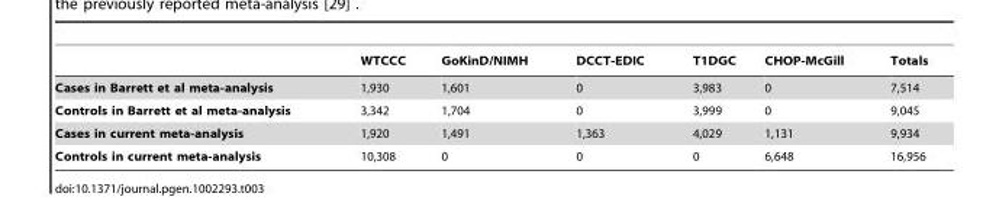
<table><thead><tr><td></td><td>WTCCC</td><td>GoKinD/NIMH</td><td>DCCT-EDIC</td><td>T1DGC</td><td>CHOP-McGill</td><td>Totals</td></tr></thead><tbody><tr><td>Cases in Barrett et al meta-analysis</td><td>1,930</td><td>1,601</td><td>0</td><td>3,983</td><td>0</td><td>7,514</td></tr><tr><td>Controls in Barrett et al meta-analysis</td><td>3,342</td><td>1,704</td><td>0</td><td>3,999</td><td>0</td><td>9,045</td></tr><tr><td>Cases in current meta-analysis</td><td>1,920</td><td>1,491</td><td>1,363</td><td>4,029</td><td>1,131</td><td>9,934</td></tr><tr><td>Controls in current meta-analysis</td><td>10,308</td><td>0</td><td>0</td><td>0</td><td>6,648</td><td>16,956</td></tr></tbody></table>